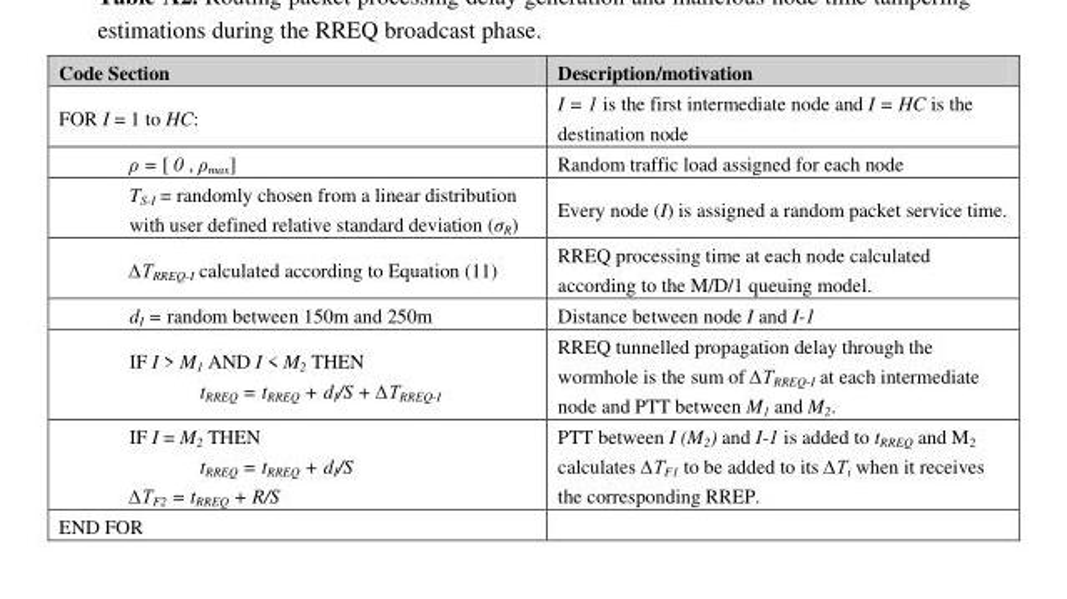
<table><thead><tr><td>Code Section</td><td>Description/motivation</td></tr></thead><tbody><tr><td>FOR I = 1 to HC:</td><td>I = 1 is the first intermediate node and I = HC is the destination node</td></tr><tr><td>ρ = [ 0 , ρ<sub>max</sub>]</td><td>Random traffic load assigned for each node</td></tr><tr><td>T<sub>S-I</sub> = randomly chosen from a linear distribution with user defined relative standard deviation (σ<sub>R</sub>)</td><td>Every node (I) is assigned a random packet service time.</td></tr><tr><td>∆TRREQ-I calculated according to Equation (11)</td><td>RREQ processing time at each node calculated according to the M/D/1 queuing model.</td></tr><tr><td>d<sub>I</sub> = random between 150m and 250m</td><td>Distance between node I and I-1</td></tr><tr><td>IF I &gt; M1 AND I &lt; M2 THEN tRREQ = tRREQ + dI/S + ∆TRREQ-I</td><td>RREQ tunnelled propagation delay through the wormhole is the sum of ∆TRREQ-I at each intermediate node and PTT between M1 and M2.</td></tr><tr><td>IF I = M2 THEN tRREQ = tRREQ + dI/S ∆TF2 = tRREQ + R/S</td><td>PTT between I (M2) and I-1 is added to tRREQ and M2 calculates ∆TF1 to be added to its ∆Ti when it receives the corresponding RREP.</td></tr><tr><td>END FOR</td><td></td></tr></tbody></table>